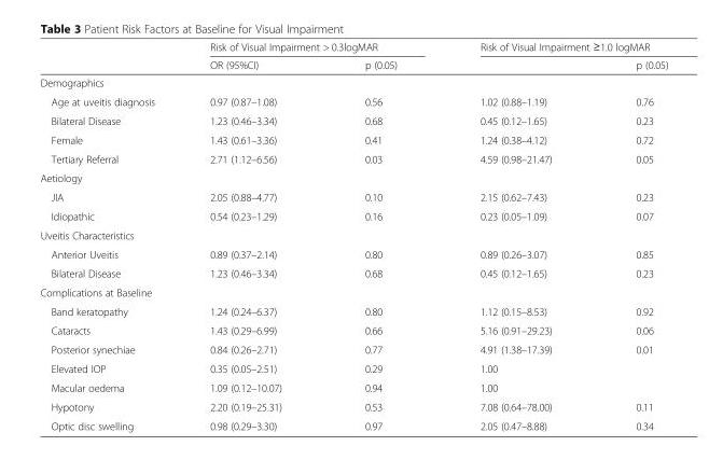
<table><thead><tr><td rowspan="2"></td><td colspan="2">Risk of Visual Impairment &gt; 0.3logMAR</td><td colspan="2">Risk of Visual Impairment ≥1.0 logMAR</td></tr><tr><td>OR (95%CI)</td><td>p (0.05)</td><td></td><td>p (0.05)</td></tr></thead><tbody><tr><td colspan="5">Demographics</td></tr><tr><td>Age at uveitis diagnosis</td><td>0.97 (0.87–1.08)</td><td>0.56</td><td>1.02 (0.88–1.19)</td><td>0.76</td></tr><tr><td>Bilateral Disease</td><td>1.23 (0.46–3.34)</td><td>0.68</td><td>0.45 (0.12–1.65)</td><td>0.23</td></tr><tr><td>Female</td><td>1.43 (0.61–3.36)</td><td>0.41</td><td>1.24 (0.38–4.12)</td><td>0.72</td></tr><tr><td>Tertiary Referral</td><td>2.71 (1.12–6.56)</td><td>0.03</td><td>4.59 (0.98–21.47)</td><td>0.05</td></tr><tr><td colspan="5">Aetiology</td></tr><tr><td>JIA</td><td>2.05 (0.88–4.77)</td><td>0.10</td><td>2.15 (0.62–7.43)</td><td>0.23</td></tr><tr><td>Idiopathic</td><td>0.54 (0.23–1.29)</td><td>0.16</td><td>0.23 (0.05–1.09)</td><td>0.07</td></tr><tr><td colspan="5">Uveitis Characteristics</td></tr><tr><td>Anterior Uveitis</td><td>0.89 (0.37–2.14)</td><td>0.80</td><td>0.89 (0.26–3.07)</td><td>0.85</td></tr><tr><td>Bilateral Disease</td><td>1.23 (0.46–3.34)</td><td>0.68</td><td>0.45 (0.12–1.65)</td><td>0.23</td></tr><tr><td colspan="5">Complications at Baseline</td></tr><tr><td>Band keratopathy</td><td>1.24 (0.24–6.37)</td><td>0.80</td><td>1.12 (0.15–8.53)</td><td>0.92</td></tr><tr><td>Cataracts</td><td>1.43 (0.29–6.99)</td><td>0.66</td><td>5.16 (0.91–29.23)</td><td>0.06</td></tr><tr><td>Posterior synechiae</td><td>0.84 (0.26–2.71)</td><td>0.77</td><td>4.91 (1.38–17.39)</td><td>0.01</td></tr><tr><td>Elevated IOP</td><td>0.35 (0.05–2.51)</td><td>0.29</td><td>1.00</td><td></td></tr><tr><td>Macular oedema</td><td>1.09 (0.12–10.07)</td><td>0.94</td><td>1.00</td><td></td></tr><tr><td>Hypotony</td><td>2.20 (0.19–25.31)</td><td>0.53</td><td>7.08 (0.64–78.00)</td><td>0.11</td></tr><tr><td>Optic disc swelling</td><td>0.98 (0.29–3.30)</td><td>0.97</td><td>2.05 (0.47–8.88)</td><td>0.34</td></tr></tbody></table>